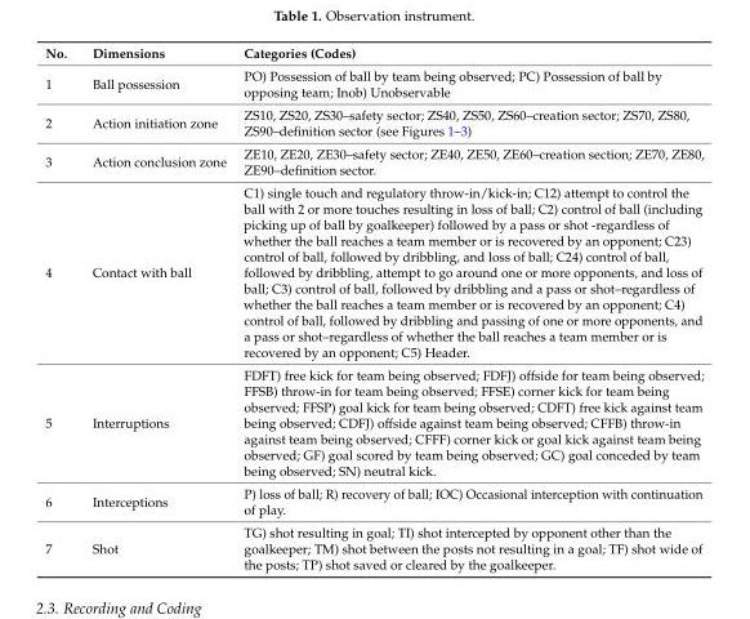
<table><thead><tr><td>No.</td><td>Dimensions</td><td>Categories (Codes)</td></tr></thead><tbody><tr><td>1</td><td>Ball possession</td><td>PO) Possession of ball by team being observed; PC) Possession of ball by opposing team; Inob) Unobservable</td></tr><tr><td>2</td><td>Action initiation zone</td><td>ZS10, ZS20, ZS30–safety sector; ZS40, ZS50, ZS60–creation sector; ZS70, ZS80, ZS90–definition sector (see Figures 1–3)</td></tr><tr><td>3</td><td>Action conclusion zone</td><td>ZE10, ZE20, ZE30–safety sector; ZE40, ZE50, ZE60–creation section; ZE70, ZE80, ZE90–definition sector.</td></tr><tr><td>4</td><td>Contact with ball</td><td>C1) single touch and regulatory throw-in/kick-in; C12) attempt to control the ball with 2 or more touches resulting in loss of ball; C2) control of ball (including picking up of ball by goalkeeper) followed by a pass or shot -regardless of whether the ball reaches a team member or is recovered by an opponent; C23) control of ball, followed by dribbling, and loss of ball; C24) control of ball, followed by dribbling, attempt to go around one or more opponents, and loss of ball; C3) control of ball, followed by dribbling and a pass or shot–regardless of whether the ball reaches a team member or is recovered by an opponent; C4) control of ball, followed by dribbling and passing of one or more opponents, and a pass or shot–regardless of whether the ball reaches a team member or is recovered by an opponent; C5) Header.</td></tr><tr><td>5</td><td>Interruptions</td><td>FDFT) free kick for team being observed; FDFJ) offside for team being observed; FFSB) throw-in for team being observed; FFSE) corner kick for team being observed; FFSP) goal kick for team being observed; CDFT) free kick against team being observed; CDFJ) offside against team being observed; CFFB) throw-in against team being observed; CFFF) corner kick or goal kick against team being observed; GF) goal scored by team being observed; GC) goal conceded by team being observed; SN) neutral kick.</td></tr><tr><td>6</td><td>Interceptions</td><td>P) loss of ball; R) recovery of ball; IOC) Occasional interception with continuation of play.</td></tr><tr><td>7</td><td>Shot</td><td>TG) shot resulting in goal; TI) shot intercepted by opponent other than the goalkeeper; TM) shot between the posts not resulting in a goal; TF) shot wide of the posts; TP) shot saved or cleared by the goalkeeper.</td></tr></tbody></table>